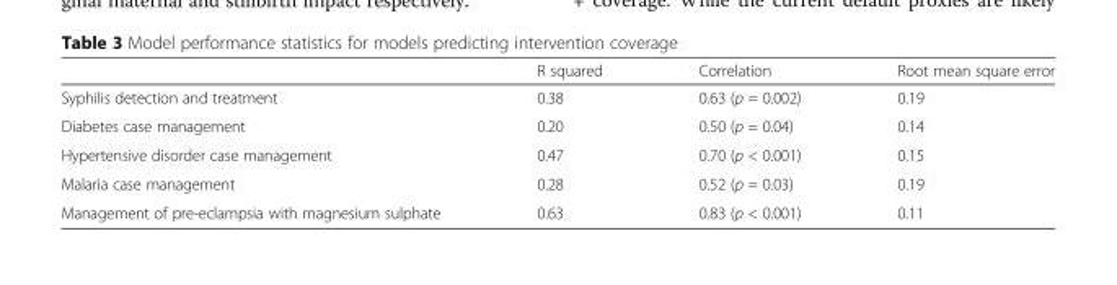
<table><thead><tr><td></td><td>R squared</td><td>Correlation</td><td>Root mean square error</td></tr></thead><tbody><tr><td>Syphilis detection and treatment</td><td>0.38</td><td>0.63 (p = 0.002)</td><td>0.19</td></tr><tr><td>Diabetes case management</td><td>0.20</td><td>0.50 (p = 0.04)</td><td>0.14</td></tr><tr><td>Hypertensive disorder case management</td><td>0.47</td><td>0.70 (p &lt; 0.001)</td><td>0.15</td></tr><tr><td>Malaria case management</td><td>0.28</td><td>0.52 (p = 0.03)</td><td>0.19</td></tr><tr><td>Management of pre-eclampsia with magnesium sulphate</td><td>0.63</td><td>0.83 (p &lt; 0.001)</td><td>0.11</td></tr></tbody></table>